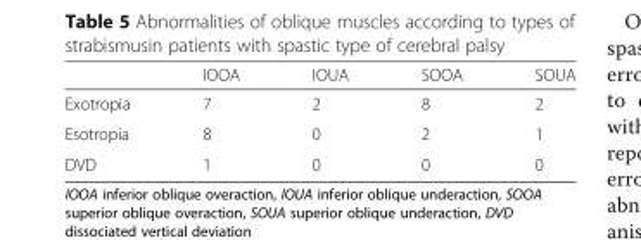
<table><thead><tr><td></td><td>IOOA</td><td>IOUA</td><td>SOOA</td><td>SOUA</td></tr></thead><tbody><tr><td>Exotropia</td><td>7</td><td>2</td><td>8</td><td>2</td></tr><tr><td>Esotropia</td><td>8</td><td>0</td><td>2</td><td>1</td></tr><tr><td>DVD</td><td>1</td><td>0</td><td>0</td><td>0</td></tr></tbody></table>